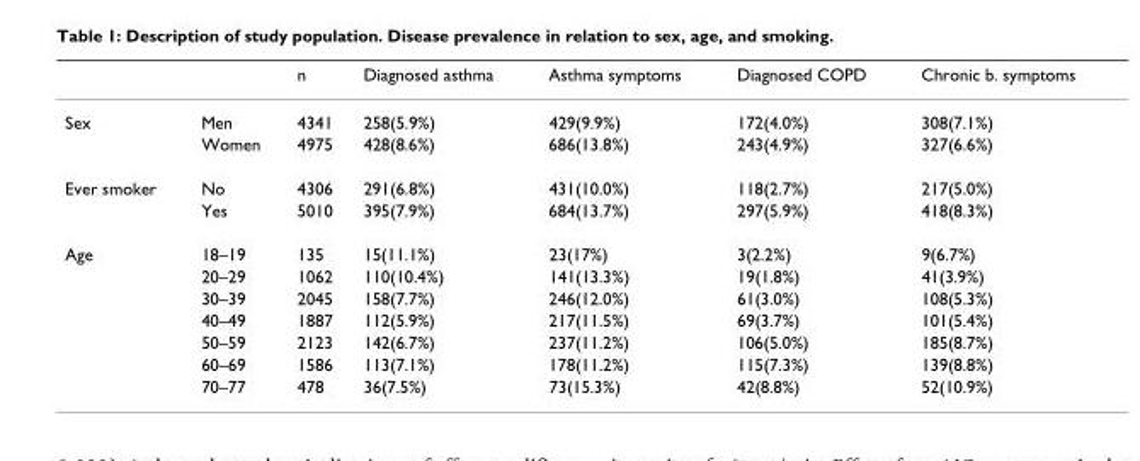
<table><thead><tr><td></td><td></td><td>n</td><td>Diagnosed asthma</td><td>Asthma symptoms</td><td>Diagnosed COPD</td><td>Chronic b. symptoms</td></tr></thead><tbody><tr><td rowspan="2">Sex</td><td>Men</td><td>4341</td><td>258(5.9%)</td><td>429(9.9%)</td><td>172(4.0%)</td><td>308(7.1%)</td></tr><tr><td>Women</td><td>4975</td><td>428(8.6%)</td><td>686(13.8%)</td><td>243(4.9%)</td><td>327(6.6%)</td></tr><tr><td rowspan="2">Ever smoker</td><td>No</td><td>4306</td><td>291(6.8%)</td><td>431(10.0%)</td><td>118(2.7%)</td><td>217(5.0%)</td></tr><tr><td>Yes</td><td>5010</td><td>395(7.9%)</td><td>684(13.7%)</td><td>297(5.9%)</td><td>418(8.3%)</td></tr><tr><td rowspan="7">Age</td><td>18–19</td><td>135</td><td>15(11.1%)</td><td>23(17%)</td><td>3(2.2%)</td><td>9(6.7%)</td></tr><tr><td>20–29</td><td>1062</td><td>110(10.4%)</td><td>141(13.3%)</td><td>19(1.8%)</td><td>41(3.9%)</td></tr><tr><td>30–39</td><td>2045</td><td>158(7.7%)</td><td>246(12.0%)</td><td>61(3.0%)</td><td>108(5.3%)</td></tr><tr><td>40–49</td><td>1887</td><td>112(5.9%)</td><td>217(11.5%)</td><td>69(3.7%)</td><td>101(5.4%)</td></tr><tr><td>50–59</td><td>2123</td><td>142(6.7%)</td><td>237(11.2%)</td><td>106(5.0%)</td><td>185(8.7%)</td></tr><tr><td>60–69</td><td>1586</td><td>113(7.1%)</td><td>178(11.2%)</td><td>115(7.3%)</td><td>139(8.8%)</td></tr><tr><td>70–77</td><td>478</td><td>36(7.5%)</td><td>73(15.3%)</td><td>42(8.8%)</td><td>52(10.9%)</td></tr></tbody></table>